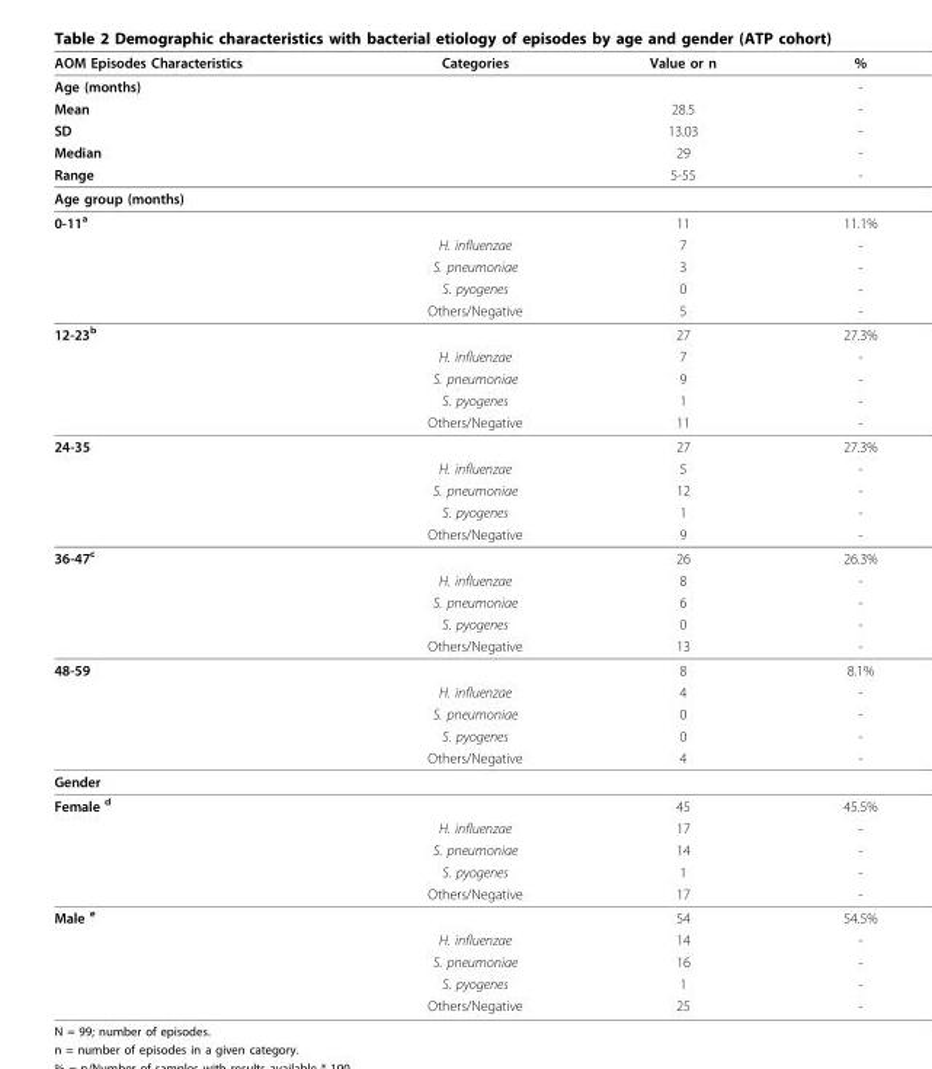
<table><thead><tr><td>AOM Episodes Characteristics</td><td>Categories</td><td>Value or n</td><td>%</td></tr></thead><tbody><tr><td>Age (months)</td><td></td><td></td><td>-</td></tr><tr><td>Mean</td><td></td><td>28.5</td><td>-</td></tr><tr><td>SD</td><td></td><td>13.03</td><td>-</td></tr><tr><td>Median</td><td></td><td>29</td><td>-</td></tr><tr><td>Range</td><td></td><td>5-55</td><td>-</td></tr><tr><td colspan="4">Age group (months)</td></tr><tr><td rowspan="5">0-11<sup>a</sup></td><td></td><td>11</td><td>11.1%</td></tr><tr><td>H. influenzae</td><td>7</td><td>-</td></tr><tr><td>S. pneumoniae</td><td>3</td><td>-</td></tr><tr><td>S. pyogenes</td><td>0</td><td>-</td></tr><tr><td>Others/Negative</td><td>5</td><td>-</td></tr><tr><td rowspan="5">12-23<sup>b</sup></td><td></td><td>27</td><td>27.3%</td></tr><tr><td>H. influenzae</td><td>7</td><td>-</td></tr><tr><td>S. pneumoniae</td><td>9</td><td>-</td></tr><tr><td>S. pyogenes</td><td>1</td><td>-</td></tr><tr><td>Others/Negative</td><td>11</td><td>-</td></tr><tr><td rowspan="5">24-35</td><td></td><td>27</td><td>27.3%</td></tr><tr><td>H. influenzae</td><td>5</td><td>-</td></tr><tr><td>S. pneumoniae</td><td>12</td><td>-</td></tr><tr><td>S. pyogenes</td><td>1</td><td>-</td></tr><tr><td>Others/Negative</td><td>9</td><td>-</td></tr><tr><td rowspan="5">36-47<sup>c</sup></td><td></td><td>26</td><td>26.3%</td></tr><tr><td>H. influenzae</td><td>8</td><td>-</td></tr><tr><td>S. pneumoniae</td><td>6</td><td>-</td></tr><tr><td>S. pyogenes</td><td>0</td><td>-</td></tr><tr><td>Others/Negative</td><td>13</td><td>-</td></tr><tr><td rowspan="5">48-59</td><td></td><td>8</td><td>8.1%</td></tr><tr><td>H. influenzae</td><td>4</td><td>-</td></tr><tr><td>S. pneumoniae</td><td>0</td><td>-</td></tr><tr><td>S. pyogenes</td><td>0</td><td>-</td></tr><tr><td>Others/Negative</td><td>4</td><td>-</td></tr><tr><td colspan="4">Gender</td></tr><tr><td rowspan="5">Female <sup>d</sup></td><td></td><td>45</td><td>45.5%</td></tr><tr><td>H. influenzae</td><td>17</td><td>-</td></tr><tr><td>S. pneumoniae</td><td>14</td><td>-</td></tr><tr><td>S. pyogenes</td><td>1</td><td>-</td></tr><tr><td>Others/Negative</td><td>17</td><td>-</td></tr><tr><td rowspan="5">Male <sup>e</sup></td><td></td><td>54</td><td>54.5%</td></tr><tr><td>H. influenzae</td><td>14</td><td>-</td></tr><tr><td>S. pneumoniae</td><td>16</td><td>-</td></tr><tr><td>S. pyogenes</td><td>1</td><td>-</td></tr><tr><td>Others/Negative</td><td>25</td><td>-</td></tr></tbody></table>